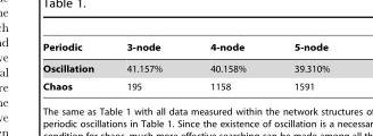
<table><thead><tr><td>Periodic</td><td>3-node</td><td>4-node</td><td>5-node</td></tr></thead><tbody><tr><td>Oscillation</td><td>41.157%</td><td>40.158%</td><td>39.310%</td></tr><tr><td>Chaos</td><td>195</td><td>1158</td><td>1591</td></tr></tbody></table>